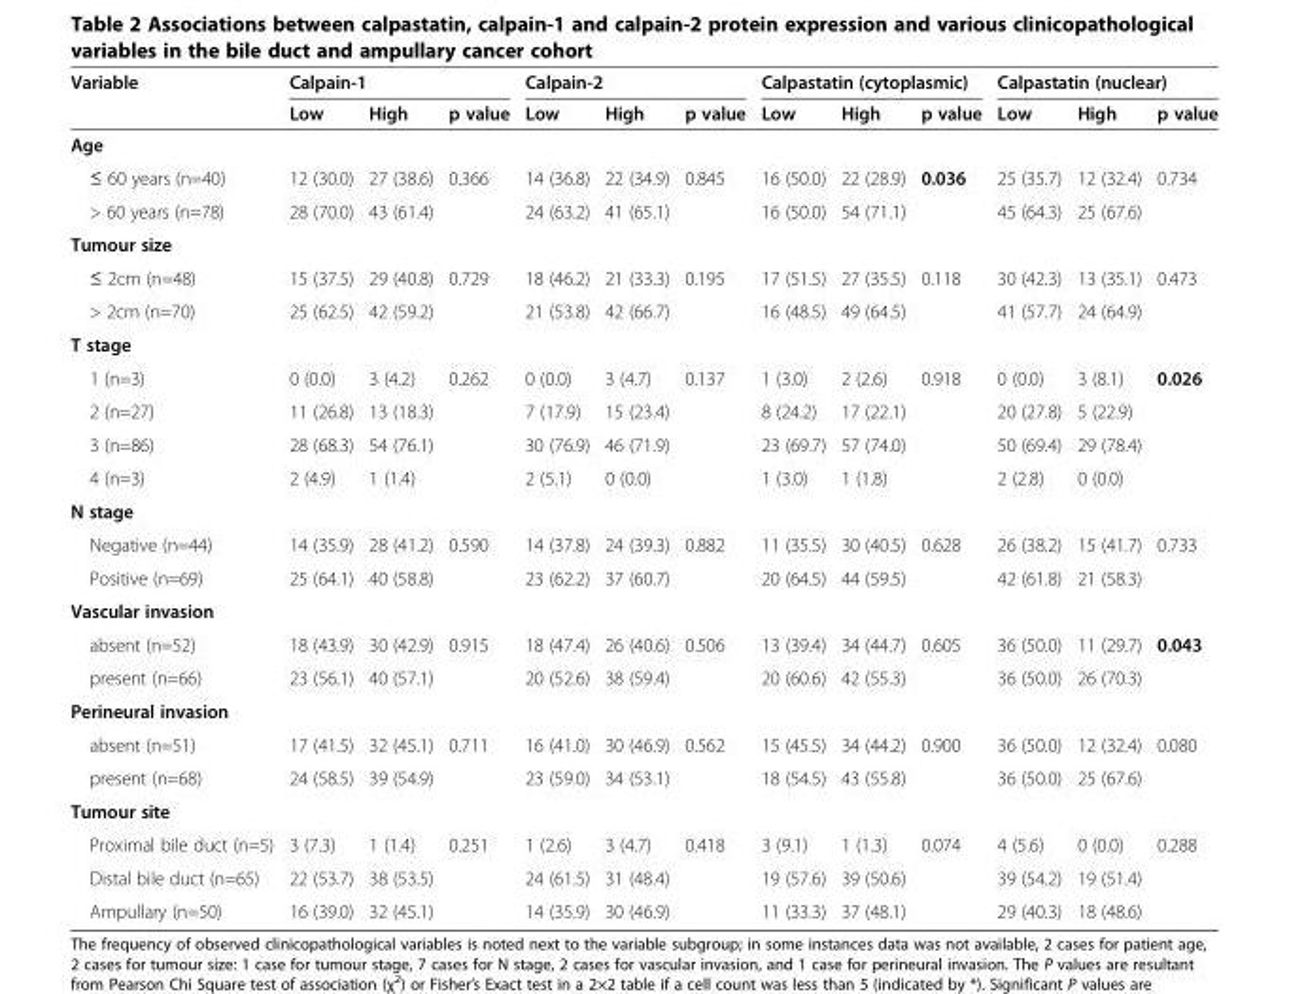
<table><thead><tr><td rowspan="2">Variable</td><td colspan="3">Calpain-1</td><td colspan="3">Calpain-2</td><td colspan="3">Calpastatin (cytoplasmic)</td><td colspan="3">Calpastatin (nuclear)</td></tr><tr><td>Low</td><td>High</td><td>p value</td><td>Low</td><td>High</td><td>p value</td><td>Low</td><td>High</td><td>p value</td><td>Low</td><td>High</td><td>p value</td></tr></thead><tbody><tr><td colspan="13">Age</td></tr><tr><td>≤ 60 years (n=40)</td><td>12 (30.0)</td><td>27 (38.6)</td><td rowspan="2">0.366</td><td>14 (36.8)</td><td>22 (34.9)</td><td rowspan="2">0.845</td><td>16 (50.0)</td><td>22 (28.9)</td><td rowspan="2">0.036</td><td>25 (35.7)</td><td>12 (32.4)</td><td rowspan="2">0.734</td></tr><tr><td>&gt; 60 years (n=78)</td><td>28 (70.0)</td><td>43 (61.4)</td><td>24 (63.2)</td><td>41 (65.1)</td><td>16 (50.0)</td><td>54 (71.1)</td><td>45 (64.3)</td><td>25 (67.6)</td></tr><tr><td colspan="13">Tumour size</td></tr><tr><td>≤ 2cm (n=48)</td><td>15 (37.5)</td><td>29 (40.8)</td><td rowspan="2">0.729</td><td>18 (46.2)</td><td>21 (33.3)</td><td rowspan="2">0.195</td><td>17 (51.5)</td><td>27 (35.5)</td><td rowspan="2">0.118</td><td>30 (42.3)</td><td>13 (35.1)</td><td rowspan="2">0.473</td></tr><tr><td>&gt; 2cm (n=70)</td><td>25 (62.5)</td><td>42 (59.2)</td><td>21 (53.8)</td><td>42 (66.7)</td><td>16 (48.5)</td><td>49 (64.5)</td><td>41 (57.7)</td><td>24 (64.9)</td></tr><tr><td colspan="13">T stage</td></tr><tr><td>1 (n=3)</td><td>0 (0.0)</td><td>3 (4.2)</td><td rowspan="4">0.262</td><td>0 (0.0)</td><td>3 (4.7)</td><td rowspan="4">0.137</td><td>1 (3.0)</td><td>2 (2.6)</td><td rowspan="4">0.918</td><td>0 (0.0)</td><td>3 (8.1)</td><td rowspan="4">0.026</td></tr><tr><td>2 (n=27)</td><td>11 (26.8)</td><td>13 (18.3)</td><td>7 (17.9)</td><td>15 (23.4)</td><td>8 (24.2)</td><td>17 (22.1)</td><td>20 (27.8)</td><td>5 (22.9)</td></tr><tr><td>3 (n=86)</td><td>28 (68.3)</td><td>54 (76.1)</td><td>30 (76.9)</td><td>46 (71.9)</td><td>23 (69.7)</td><td>57 (74.0)</td><td>50 (69.4)</td><td>29 (78.4)</td></tr><tr><td>4 (n=3)</td><td>2 (4.9)</td><td>1 (1.4)</td><td>2 (5.1)</td><td>0 (0.0)</td><td>1 (3.0)</td><td>1 (1.8)</td><td>2 (2.8)</td><td>0 (0.0)</td></tr><tr><td colspan="13">N stage</td></tr><tr><td>Negative (n=44)</td><td>14 (35.9)</td><td>28 (41.2)</td><td rowspan="2">0.590</td><td>14 (37.8)</td><td>24 (39.3)</td><td rowspan="2">0.882</td><td>11 (35.5)</td><td>30 (40.5)</td><td rowspan="2">0.628</td><td>26 (38.2)</td><td>15 (41.7)</td><td rowspan="2">0.733</td></tr><tr><td>Positive (n=69)</td><td>25 (64.1)</td><td>40 (58.8)</td><td>23 (62.2)</td><td>37 (60.7)</td><td>20 (64.5)</td><td>44 (59.5)</td><td>42 (61.8)</td><td>21 (58.3)</td></tr><tr><td colspan="13">Vascular invasion</td></tr><tr><td>absent (n=52)</td><td>18 (43.9)</td><td>30 (42.9)</td><td rowspan="2">0.915</td><td>18 (47.4)</td><td>26 (40.6)</td><td rowspan="2">0.506</td><td>13 (39.4)</td><td>34 (44.7)</td><td rowspan="2">0.605</td><td>36 (50.0)</td><td>11 (29.7)</td><td rowspan="2">0.043</td></tr><tr><td>present (n=66)</td><td>23 (56.1)</td><td>40 (57.1)</td><td>20 (52.6)</td><td>38 (59.4)</td><td>20 (60.6)</td><td>42 (55.3)</td><td>36 (50.0)</td><td>26 (70.3)</td></tr><tr><td colspan="13">Perineural invasion</td></tr><tr><td>absent (n=51)</td><td>17 (41.5)</td><td>32 (45.1)</td><td>0.711</td><td>16 (41.0)</td><td>30 (46.9)</td><td>0.562</td><td>15 (45.5)</td><td>34 (44.2)</td><td>0.900</td><td>36 (50.0)</td><td>12 (32.4)</td><td>0.080</td></tr><tr><td>present (n=68)</td><td>24 (58.5)</td><td>39 (54.9)</td><td></td><td>23 (59.0)</td><td>34 (53.1)</td><td></td><td>18 (54.5)</td><td>43 (55.8)</td><td></td><td>36 (50.0)</td><td>25 (67.6)</td><td></td></tr><tr><td colspan="13">Tumour site</td></tr><tr><td>Proximal bile duct (n=5)</td><td>3 (7.3)</td><td>1 (1.4)</td><td rowspan="3">0.251</td><td>1 (2.6)</td><td>3 (4.7)</td><td rowspan="3">0.418</td><td>3 (9.1)</td><td>1 (1.3)</td><td rowspan="3">0.074</td><td>4 (5.6)</td><td>0 (0.0)</td><td rowspan="3">0.288</td></tr><tr><td>Distal bile duct (n=65)</td><td>22 (53.7)</td><td>38 (53.5)</td><td>24 (61.5)</td><td>31 (48.4)</td><td>19 (57.6)</td><td>39 (50.6)</td><td>39 (54.2)</td><td>19 (51.4)</td></tr><tr><td>Ampullary (n=50)</td><td>16 (39.0)</td><td>32 (45.1)</td><td>14 (35.9)</td><td>30 (46.9)</td><td>11 (33.3)</td><td>37 (48.1)</td><td>29 (40.3)</td><td>18 (48.6)</td></tr></tbody></table>